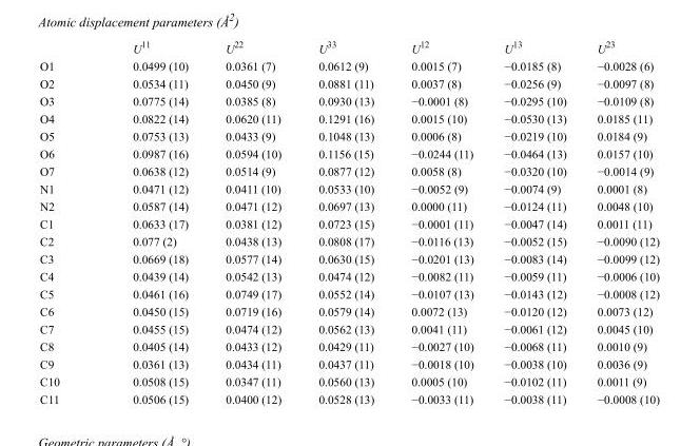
<table><thead><tr><td></td><td>U<sup>11</sup></td><td>U<sup>22</sup></td><td>U<sup>33</sup></td><td>U<sup>12</sup></td><td>U<sup>13</sup></td><td>U<sup>23</sup></td></tr></thead><tbody><tr><td>O1</td><td>0.0499 (10)</td><td>0.0361 (7)</td><td>0.0612 (9)</td><td>0.0015 (7)</td><td>−0.0185 (8)</td><td>−0.0028 (6)</td></tr><tr><td>O2</td><td>0.0534 (11)</td><td>0.0450 (9)</td><td>0.0881 (11)</td><td>0.0037 (8)</td><td>−0.0256 (9)</td><td>−0.0097 (8)</td></tr><tr><td>O3</td><td>0.0775 (14)</td><td>0.0385 (8)</td><td>0.0930 (13)</td><td>−0.0001 (8)</td><td>−0.0295 (10)</td><td>−0.0109 (8)</td></tr><tr><td>O4</td><td>0.0822 (14)</td><td>0.0620 (11)</td><td>0.1291 (16)</td><td>0.0015 (10)</td><td>−0.0530 (13)</td><td>0.0185 (11)</td></tr><tr><td>O5</td><td>0.0753 (13)</td><td>0.0433 (9)</td><td>0.1048 (13)</td><td>0.0006 (8)</td><td>−0.0219 (10)</td><td>0.0184 (9)</td></tr><tr><td>O6</td><td>0.0987 (16)</td><td>0.0594 (10)</td><td>0.1156 (15)</td><td>−0.0244 (11)</td><td>−0.0464 (13)</td><td>0.0157 (10)</td></tr><tr><td>O7</td><td>0.0638 (12)</td><td>0.0514 (9)</td><td>0.0877 (12)</td><td>0.0058 (8)</td><td>−0.0320 (10)</td><td>−0.0014 (9)</td></tr><tr><td>N1</td><td>0.0471 (12)</td><td>0.0411 (10)</td><td>0.0533 (10)</td><td>−0.0052 (9)</td><td>−0.0074 (9)</td><td>0.0001 (8)</td></tr><tr><td>N2</td><td>0.0587 (14)</td><td>0.0471 (12)</td><td>0.0697 (13)</td><td>0.0000 (11)</td><td>−0.0124 (11)</td><td>0.0048 (10)</td></tr><tr><td>C1</td><td>0.0633 (17)</td><td>0.0381 (12)</td><td>0.0723 (15)</td><td>−0.0001 (11)</td><td>−0.0047 (14)</td><td>0.0011 (11)</td></tr><tr><td>C2</td><td>0.077 (2)</td><td>0.0438 (13)</td><td>0.0808 (17)</td><td>−0.0116 (13)</td><td>−0.0052 (15)</td><td>−0.0090 (12)</td></tr><tr><td>C3</td><td>0.0669 (18)</td><td>0.0577 (14)</td><td>0.0630 (15)</td><td>−0.0201 (13)</td><td>−0.0083 (14)</td><td>−0.0099 (12)</td></tr><tr><td>C4</td><td>0.0439 (14)</td><td>0.0542 (13)</td><td>0.0474 (12)</td><td>−0.0082 (11)</td><td>−0.0059 (11)</td><td>−0.0006 (10)</td></tr><tr><td>C5</td><td>0.0461 (16)</td><td>0.0749 (17)</td><td>0.0552 (14)</td><td>−0.0107 (13)</td><td>−0.0143 (12)</td><td>−0.0008 (12)</td></tr><tr><td>C6</td><td>0.0450 (15)</td><td>0.0719 (16)</td><td>0.0579 (14)</td><td>0.0072 (13)</td><td>−0.0120 (12)</td><td>0.0073 (12)</td></tr><tr><td>C7</td><td>0.0455 (15)</td><td>0.0474 (12)</td><td>0.0562 (13)</td><td>0.0041 (11)</td><td>−0.0061 (12)</td><td>0.0045 (10)</td></tr><tr><td>C8</td><td>0.0405 (14)</td><td>0.0433 (12)</td><td>0.0429 (11)</td><td>−0.0027 (10)</td><td>−0.0068 (11)</td><td>0.0010 (9)</td></tr><tr><td>C9</td><td>0.0361 (13)</td><td>0.0434 (11)</td><td>0.0437 (11)</td><td>−0.0018 (10)</td><td>−0.0038 (10)</td><td>0.0036 (9)</td></tr><tr><td>C10</td><td>0.0508 (15)</td><td>0.0347 (11)</td><td>0.0560 (13)</td><td>0.0005 (10)</td><td>−0.0102 (11)</td><td>0.0011 (9)</td></tr><tr><td>C11</td><td>0.0506 (15)</td><td>0.0400 (12)</td><td>0.0528 (13)</td><td>−0.0033 (11)</td><td>−0.0038 (11)</td><td>−0.0008 (10)</td></tr></tbody></table>